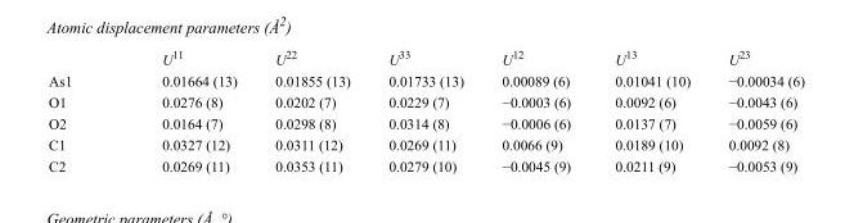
<table><thead><tr><td></td><td>U<sup>11</sup></td><td>U<sup>22</sup></td><td>U<sup>33</sup></td><td>U<sup>12</sup></td><td>U<sup>13</sup></td><td>U<sup>23</sup></td></tr></thead><tbody><tr><td>As1</td><td>0.01664 (13)</td><td>0.01855 (13)</td><td>0.01733 (13)</td><td>0.00089 (6)</td><td>0.01041 (10)</td><td>−0.00034 (6)</td></tr><tr><td>O1</td><td>0.0276 (8)</td><td>0.0202 (7)</td><td>0.0229 (7)</td><td>−0.0003 (6)</td><td>0.0092 (6)</td><td>−0.0043 (6)</td></tr><tr><td>O2</td><td>0.0164 (7)</td><td>0.0298 (8)</td><td>0.0314 (8)</td><td>−0.0006 (6)</td><td>0.0137 (7)</td><td>−0.0059 (6)</td></tr><tr><td>C1</td><td>0.0327 (12)</td><td>0.0311 (12)</td><td>0.0269 (11)</td><td>0.0066 (9)</td><td>0.0189 (10)</td><td>0.0092 (8)</td></tr><tr><td>C2</td><td>0.0269 (11)</td><td>0.0353 (11)</td><td>0.0279 (10)</td><td>−0.0045 (9)</td><td>0.0211 (9)</td><td>−0.0053 (9)</td></tr></tbody></table>